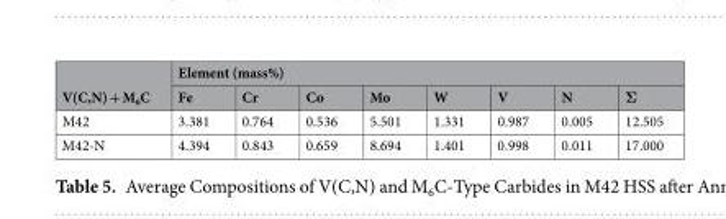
<table><thead><tr><td rowspan="2">V(C,N) + M<sub>6</sub>C</td><td colspan="8">Element (mass%)</td></tr><tr><td>Fe</td><td>Cr</td><td>Co</td><td>Mo</td><td>W</td><td>V</td><td>N</td><td>Σ</td></tr></thead><tbody><tr><td>M42</td><td>3.381</td><td>0.764</td><td>0.536</td><td>5.501</td><td>1.331</td><td>0.987</td><td>0.005</td><td>12.505</td></tr><tr><td>M42-N</td><td>4.394</td><td>0.843</td><td>0.659</td><td>8.694</td><td>1.401</td><td>0.998</td><td>0.011</td><td>17.000</td></tr></tbody></table>